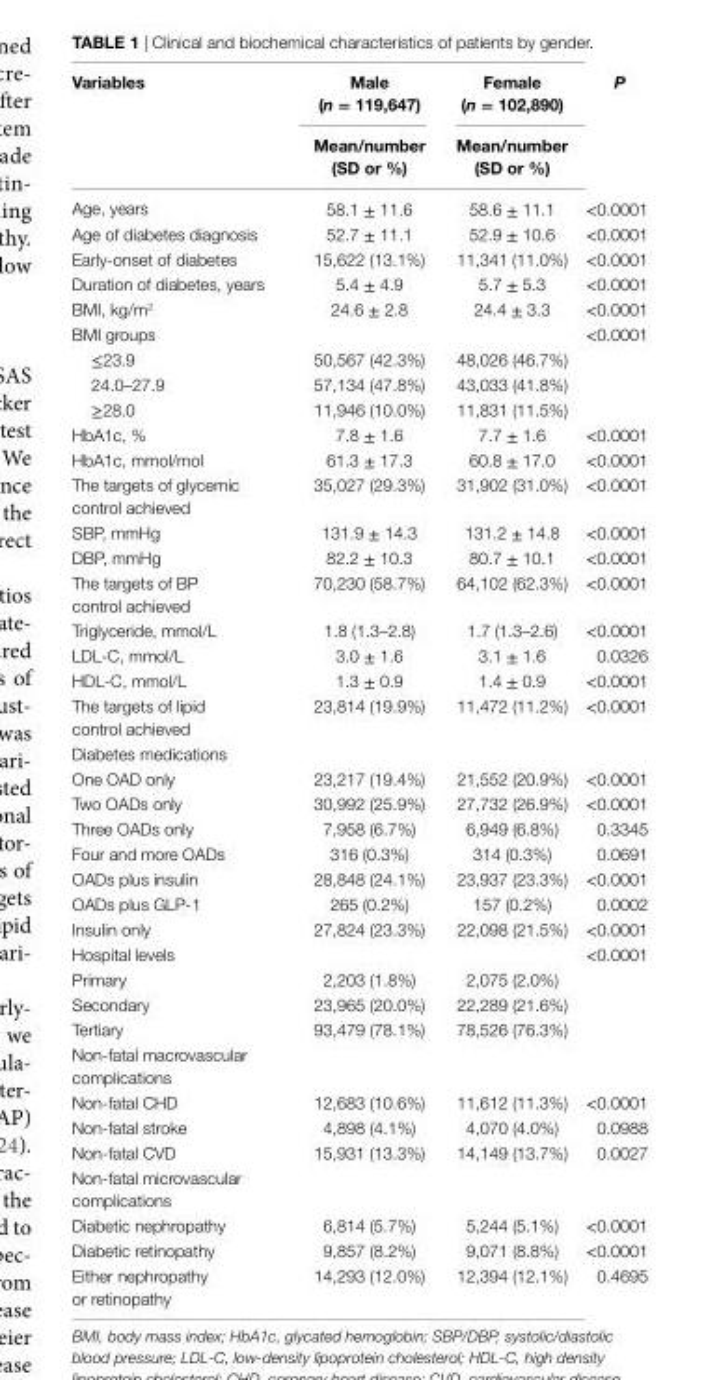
<table><thead><tr><td rowspan="2">Variables</td><td rowspan="2">Male (n = 119,647) Mean/number (sD or %)</td><td rowspan="2">Female (n = 102,890) Mean/number (sD or %)</td><td rowspan="2">P</td></tr><tr></tr></thead><tbody><tr><td>Age, years</td><td>58.1 ± 11.6</td><td>58.6 ± 11.1</td><td>&lt;0.0001</td></tr><tr><td>Age of diabetes diagnosis</td><td>52.7 ± 11.1</td><td>52.9 ± 10.6</td><td>&lt;0.0001</td></tr><tr><td>Early-onset of diabetes</td><td>15,622 (13.1%)</td><td>11,341 (11.0%)</td><td>&lt;0.0001</td></tr><tr><td>Duration of diabetes, years</td><td>5.4 ± 4.9</td><td>5.7 ± 5.3</td><td>&lt;0.0001</td></tr><tr><td>BMI, kg/m<sup>2</sup></td><td>24.6 ± 2.8</td><td>24.4 ± 3.3</td><td>&lt;0.0001</td></tr><tr><td>BMI groups</td><td></td><td></td><td>&lt;0.0001</td></tr><tr><td>≤23.9</td><td>50,567 (42.3%)</td><td>48,026 (46.7%)</td><td></td></tr><tr><td>24.0–27.9</td><td>57,134 (47.8%)</td><td>43,033 (41.8%)</td><td></td></tr><tr><td>≥28.0</td><td>11,946 (10.0%)</td><td>11,831 (11.5%)</td><td></td></tr><tr><td>HbA1c, %</td><td>7.8 ± 1.6</td><td>7.7 ± 1.6</td><td>&lt;0.0001</td></tr><tr><td>HbA1c, mmol/mol</td><td>61.3 ± 17.3</td><td>60.8 ± 17.0</td><td>&lt;0.0001</td></tr><tr><td>The targets of glycemic control achieved</td><td>35,027 (29.3%)</td><td>31,902 (31.0%)</td><td>&lt;0.0001</td></tr><tr><td>SBP, mmHg</td><td>131.9 ± 14.3</td><td>131.2 ± 14.8</td><td>&lt;0.0001</td></tr><tr><td>DBP, mmHg</td><td>82.2 ± 10.3</td><td>80.7 ± 10.1</td><td>&lt;0.0001</td></tr><tr><td>The targets of BP control achieved</td><td>70,230 (58.7%)</td><td>64,102 (62.3%)</td><td>&lt;0.0001</td></tr><tr><td>Triglyceride, mmol/L</td><td>1.8 (1.3–2.8)</td><td>1.7 (1.3–2.6)</td><td>&lt;0.0001</td></tr><tr><td>LDL-C, mmol/L</td><td>3.0 ± 1.6</td><td>3.1 ± 1.6</td><td>0.0326</td></tr><tr><td>HDL-C, mmol/L</td><td>1.3 ± 0.9</td><td>1.4 ± 0.9</td><td>&lt;0.0001</td></tr><tr><td>The targets of lipid control achieved</td><td>23,814 (19.9%)</td><td>11,472 (11.2%)</td><td>&lt;0.0001</td></tr><tr><td colspan="4">Diabetes medications</td></tr><tr><td>One OAD only</td><td>23,217 (19.4%)</td><td>21,552 (20.9%)</td><td>&lt;0.0001</td></tr><tr><td>Two OADs only</td><td>30,992 (25.9%)</td><td>27,732 (26.9%)</td><td>&lt;0.0001</td></tr><tr><td>Three OADs only</td><td>7,958 (6.7%)</td><td>6,949 (6.8%)</td><td>0.3345</td></tr><tr><td>Four and more OADs</td><td>316 (0.3%)</td><td>314 (0.3%)</td><td>0.0691</td></tr><tr><td>OADs plus insulin</td><td>28,848 (24.1%)</td><td>23,937 (23.3%)</td><td>&lt;0.0001</td></tr><tr><td>OADs plus GLP-1</td><td>265 (0.2%)</td><td>157 (0.2%)</td><td>0.0002</td></tr><tr><td>Insulin only</td><td>27,824 (23.3%)</td><td>22,098 (21.5%)</td><td>&lt;0.0001</td></tr><tr><td>Hospital levels</td><td></td><td></td><td>&lt;0.0001</td></tr><tr><td>Primary</td><td>2,203 (1.8%)</td><td>2,075 (2.0%)</td><td></td></tr><tr><td>Secondary</td><td>23,965 (20.0%)</td><td>22,289 (21.6%)</td><td></td></tr><tr><td>Tertiary</td><td>93,479 (78.1%)</td><td>78,526 (76.3%)</td><td></td></tr><tr><td colspan="4">Non-fatal macrovascular complications</td></tr><tr><td>Non-fatal CHD</td><td>12,683 (10.6%)</td><td>11,612 (11.3%)</td><td>&lt;0.0001</td></tr><tr><td>Non-fatal stroke</td><td>4,898 (4.1%)</td><td>4,070 (4.0%)</td><td>0.0988</td></tr><tr><td>Non-fatal CVD</td><td>15,931 (13.3%)</td><td>14,149 (13.7%)</td><td>0.0027</td></tr><tr><td colspan="4">Non-fatal microvascular complications</td></tr><tr><td>Diabetic nephropathy</td><td>6,814 (5.7%)</td><td>5,244 (5.1%)</td><td>&lt;0.0001</td></tr><tr><td>Diabetic retinopathy</td><td>9,857 (8.2%)</td><td>9,071 (8.8%)</td><td>&lt;0.0001</td></tr><tr><td>Either nephropathy or retinopathy</td><td>14,293 (12.0%)</td><td>12,394 (12.1%)</td><td>0.4695</td></tr></tbody></table>